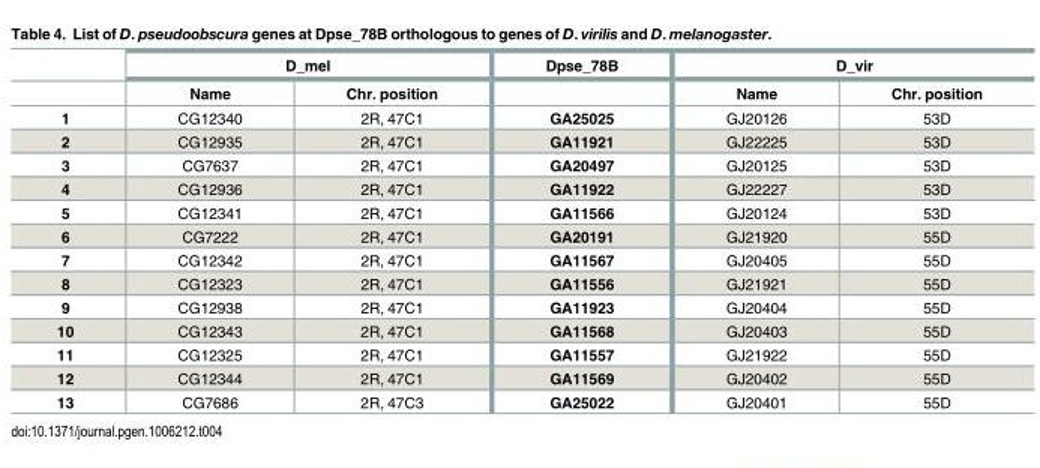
<table><thead><tr><td rowspan="2"></td><td colspan="2">D_mel</td><td rowspan="2">Dpse_78B</td><td colspan="2">D_vir</td></tr><tr><td>Name</td><td>Chr. position</td><td>Name</td><td>Chr. position</td></tr></thead><tbody><tr><td>1</td><td>CG12340</td><td>2R, 47C1</td><td>GA25025</td><td>GJ20126</td><td>53D</td></tr><tr><td>2</td><td>CG12935</td><td>2R, 47C1</td><td>GA11921</td><td>GJ22225</td><td>53D</td></tr><tr><td>3</td><td>CG7637</td><td>2R, 47C1</td><td>GA20497</td><td>GJ20125</td><td>53D</td></tr><tr><td>4</td><td>CG12936</td><td>2R, 47C1</td><td>GA11922</td><td>GJ22227</td><td>53D</td></tr><tr><td>5</td><td>CG12341</td><td>2R, 47C1</td><td>GA11566</td><td>GJ20124</td><td>53D</td></tr><tr><td>6</td><td>CG7222</td><td>2R, 47C1</td><td>GA20191</td><td>GJ21920</td><td>55D</td></tr><tr><td>7</td><td>CG12342</td><td>2R, 47C1</td><td>GA11567</td><td>GJ20405</td><td>55D</td></tr><tr><td>8</td><td>CG12323</td><td>2R, 47C1</td><td>GA11556</td><td>GJ21921</td><td>55D</td></tr><tr><td>9</td><td>CG12938</td><td>2R, 47C1</td><td>GA11923</td><td>GJ20404</td><td>55D</td></tr><tr><td>10</td><td>CG12343</td><td>2R, 47C1</td><td>GA11568</td><td>GJ20403</td><td>55D</td></tr><tr><td>11</td><td>CG12325</td><td>2R, 47C1</td><td>GA11557</td><td>GJ21922</td><td>55D</td></tr><tr><td>12</td><td>CG12344</td><td>2R, 47C1</td><td>GA11569</td><td>GJ20402</td><td>55D</td></tr><tr><td>13</td><td>CG7686</td><td>2R, 47C3</td><td>GA25022</td><td>GJ20401</td><td>55D</td></tr></tbody></table>